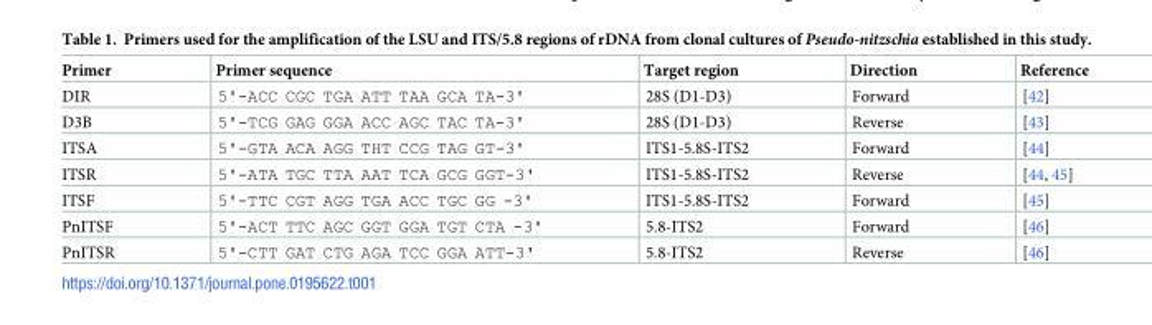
<table><thead><tr><td>Primer</td><td>Primer sequence</td><td>Target region</td><td>Direction</td><td>Reference</td></tr></thead><tbody><tr><td>DIR</td><td>5&#x27;-ACC CGC TGA ATT TAA GCA TA-3&#x27;</td><td>28S (D1-D3)</td><td>Forward</td><td>[42]</td></tr><tr><td>D3B</td><td>5&#x27;-TCG GAG GGA ACC AGC TAC TA-3&#x27;</td><td>28S (D1-D3)</td><td>Reverse</td><td>[43]</td></tr><tr><td>ITSA</td><td>5&#x27;-GTA ACA AGG THT CCG TAG GT-3&#x27;</td><td>ITS1-5.8S-ITS2</td><td>Forward</td><td>[44]</td></tr><tr><td>ITSR</td><td>5&#x27;-ATA TGC TTA AAT TCA GCG GGT-3&#x27;</td><td>ITS1-5.8S-ITS2</td><td>Reverse</td><td>[44, 45]</td></tr><tr><td>ITSF</td><td>5&#x27;-TTC CGT AGG TGA ACC TGC GG -3&#x27;</td><td>ITS1-5.8S-ITS2</td><td>Forward</td><td>[45]</td></tr><tr><td>PnITSF</td><td>5&#x27;-ACT TTC AGC GGT GGA TGT CTA -3&#x27;</td><td>5.8-ITS2</td><td>Forward</td><td>[46]</td></tr><tr><td>PnITSR</td><td>5&#x27;-CTT GAT CTG AGA TCC GGA ATT-3&#x27;</td><td>5.8-ITS2</td><td>Reverse</td><td>[46]</td></tr></tbody></table>